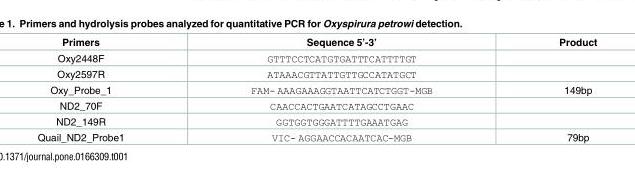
<table><thead><tr><td>Primers</td><td>Sequence 5’-3’</td><td>Product</td></tr></thead><tbody><tr><td>Oxy2448F</td><td>GTTTCCTCATGTGATTTCATTTTGT</td><td></td></tr><tr><td>Oxy2597R</td><td>ATAAACGTTATTGTTGCCATATGCT</td><td></td></tr><tr><td>Oxy_Probe_1</td><td>FAM- AAAGAAAGGTAATTCATCTGGT-MGB</td><td>149bp</td></tr><tr><td>ND2_70F</td><td>CAACCACTGAATCATAGCCTGAAC</td><td></td></tr><tr><td>ND2_149R</td><td>GGTGGTGGGATTTTGAAATGAG</td><td></td></tr><tr><td>Quail_ND2_Probe1</td><td>VIC- AGGAACCACAATCAC-MGB</td><td>79bp</td></tr></tbody></table>